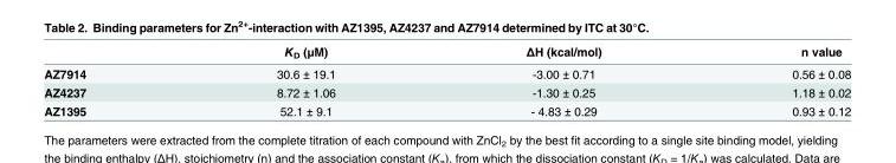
<table><thead><tr><td></td><td>K<sub>D</sub> (μM)</td><td>ΔH (kcal/mol)</td><td>n value</td></tr></thead><tbody><tr><td>AZ7914</td><td>30.6 ± 19.1</td><td>-3.00 ± 0.71</td><td>0.56 ± 0.08</td></tr><tr><td>AZ4237</td><td>8.72 ± 1.06</td><td>-1.30 ± 0.25</td><td>1.18 ± 0.02</td></tr><tr><td>AZ1395</td><td>52.1 ± 9.1</td><td>- 4.83 ± 0.29</td><td>0.93 ± 0.12</td></tr></tbody></table>